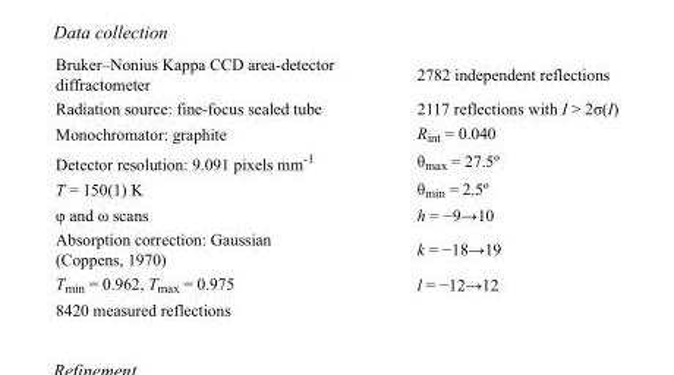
<table><tbody><tr><td>Bruker–Nonius Kappa CCD area-detector diffractometer</td><td>2782 independent reflections</td></tr><tr><td>Radiation source: fine-focus sealed tube</td><td>2117 reflections with I &gt; 2σ(I)</td></tr><tr><td>Monochromator: graphite</td><td>R<sub>int</sub> = 0.040</td></tr><tr><td>Detector resolution: 9.091 pixels mm<sup>-1</sup></td><td>θ<sub>max</sub> = 27.5º</td></tr><tr><td>T = 150(1) K</td><td>θ<sub>min</sub> = 2.5º</td></tr><tr><td>φ and ω scans</td><td>h = −9→10</td></tr><tr><td>Absorption correction: Gaussian (Coppens, 1970)</td><td>k = −18→19</td></tr><tr><td>T<sub>min</sub> = 0.962, T<sub>max</sub> = 0.975</td><td>l = −12→12</td></tr><tr><td>8420 measured reflections</td><td></td></tr></tbody></table>